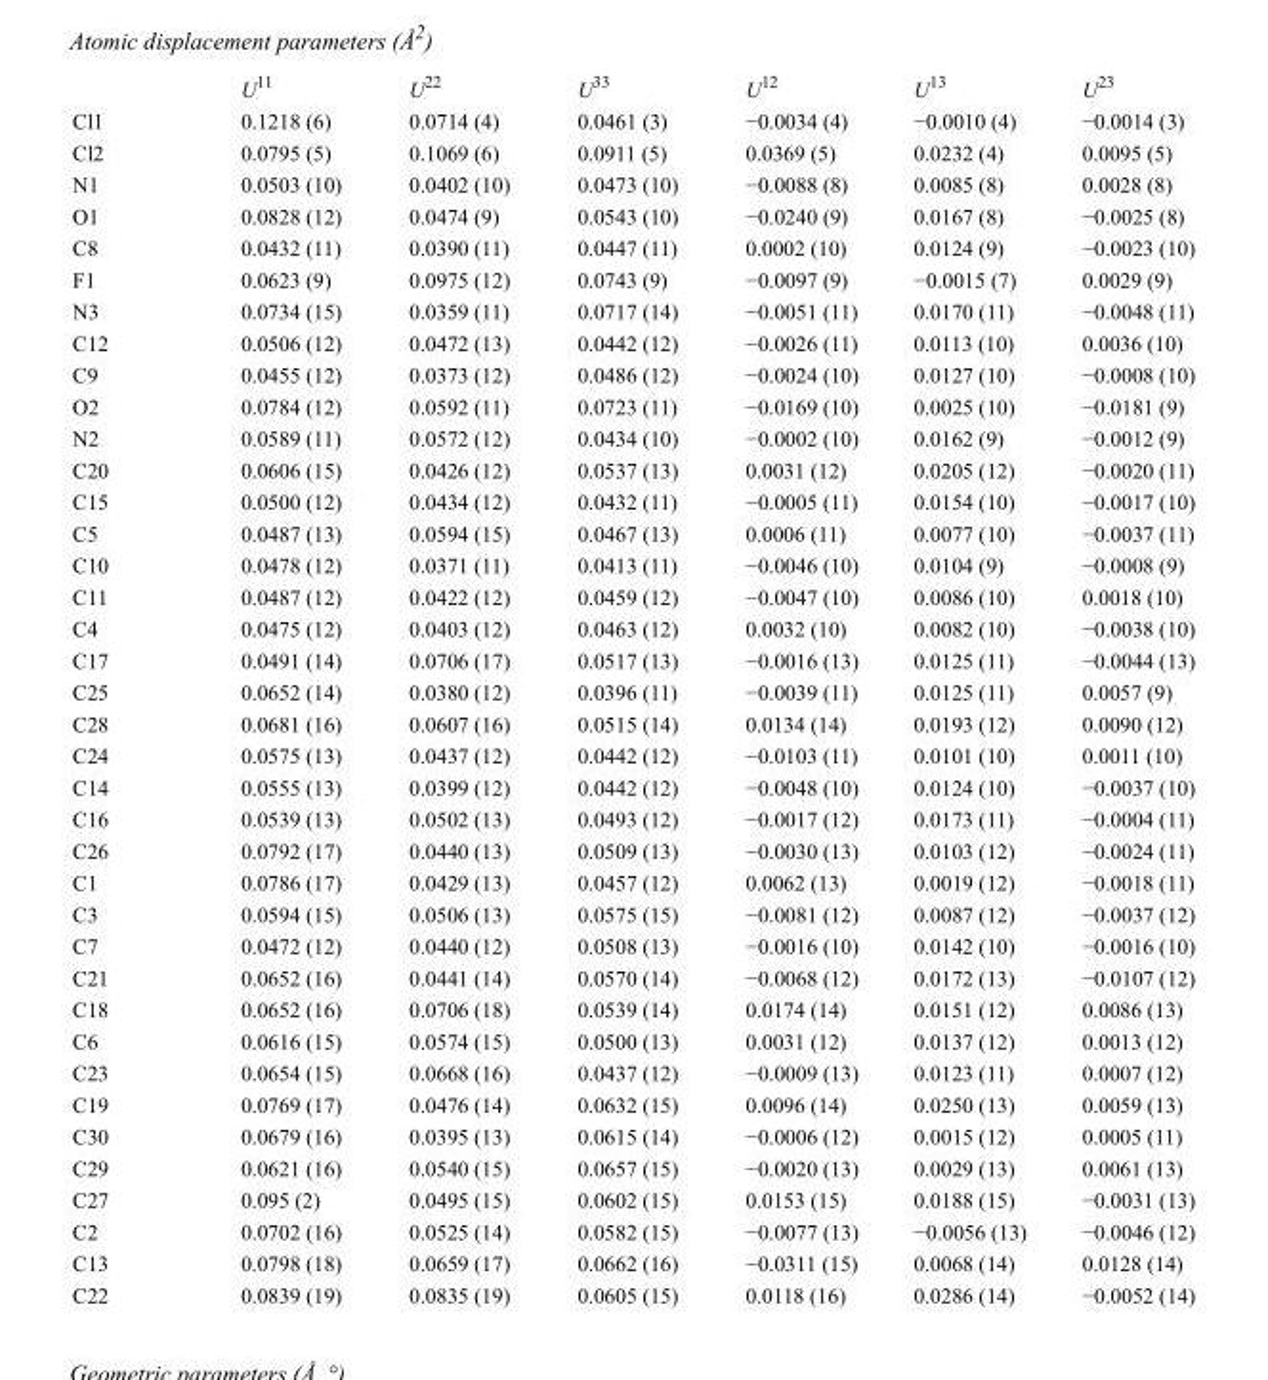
<table><thead><tr><td></td><td>U<sup>11</sup></td><td>U<sup>22</sup></td><td>U<sup>33</sup></td><td>U<sup>12</sup></td><td>U<sup>13</sup></td><td>U<sup>23</sup></td></tr></thead><tbody><tr><td>Cl1</td><td>0.1218 (6)</td><td>0.0714 (4)</td><td>0.0461 (3)</td><td>−0.0034 (4)</td><td>−0.0010 (4)</td><td>−0.0014 (3)</td></tr><tr><td>Cl2</td><td>0.0795 (5)</td><td>0.1069 (6)</td><td>0.0911 (5)</td><td>0.0369 (5)</td><td>0.0232 (4)</td><td>0.0095 (5)</td></tr><tr><td>N1</td><td>0.0503 (10)</td><td>0.0402 (10)</td><td>0.0473 (10)</td><td>−0.0088 (8)</td><td>0.0085 (8)</td><td>0.0028 (8)</td></tr><tr><td>O1</td><td>0.0828 (12)</td><td>0.0474 (9)</td><td>0.0543 (10)</td><td>−0.0240 (9)</td><td>0.0167 (8)</td><td>−0.0025 (8)</td></tr><tr><td>C8</td><td>0.0432 (11)</td><td>0.0390 (11)</td><td>0.0447 (11)</td><td>0.0002 (10)</td><td>0.0124 (9)</td><td>−0.0023 (10)</td></tr><tr><td>F1</td><td>0.0623 (9)</td><td>0.0975 (12)</td><td>0.0743 (9)</td><td>−0.0097 (9)</td><td>−0.0015 (7)</td><td>0.0029 (9)</td></tr><tr><td>N3</td><td>0.0734 (15)</td><td>0.0359 (11)</td><td>0.0717 (14)</td><td>−0.0051 (11)</td><td>0.0170 (11)</td><td>−0.0048 (11)</td></tr><tr><td>C12</td><td>0.0506 (12)</td><td>0.0472 (13)</td><td>0.0442 (12)</td><td>−0.0026 (11)</td><td>0.0113 (10)</td><td>0.0036 (10)</td></tr><tr><td>C9</td><td>0.0455 (12)</td><td>0.0373 (12)</td><td>0.0486 (12)</td><td>−0.0024 (10)</td><td>0.0127 (10)</td><td>−0.0008 (10)</td></tr><tr><td>O2</td><td>0.0784 (12)</td><td>0.0592 (11)</td><td>0.0723 (11)</td><td>−0.0169 (10)</td><td>0.0025 (10)</td><td>−0.0181 (9)</td></tr><tr><td>N2</td><td>0.0589 (11)</td><td>0.0572 (12)</td><td>0.0434 (10)</td><td>−0.0002 (10)</td><td>0.0162 (9)</td><td>−0.0012 (9)</td></tr><tr><td>C20</td><td>0.0606 (15)</td><td>0.0426 (12)</td><td>0.0537 (13)</td><td>0.0031 (12)</td><td>0.0205 (12)</td><td>−0.0020 (11)</td></tr><tr><td>C15</td><td>0.0500 (12)</td><td>0.0434 (12)</td><td>0.0432 (11)</td><td>−0.0005 (11)</td><td>0.0154 (10)</td><td>−0.0017 (10)</td></tr><tr><td>C5</td><td>0.0487 (13)</td><td>0.0594 (15)</td><td>0.0467 (13)</td><td>0.0006 (11)</td><td>0.0077 (10)</td><td>−0.0037 (11)</td></tr><tr><td>C10</td><td>0.0478 (12)</td><td>0.0371 (11)</td><td>0.0413 (11)</td><td>−0.0046 (10)</td><td>0.0104 (9)</td><td>−0.0008 (9)</td></tr><tr><td>C11</td><td>0.0487 (12)</td><td>0.0422 (12)</td><td>0.0459 (12)</td><td>−0.0047 (10)</td><td>0.0086 (10)</td><td>0.0018 (10)</td></tr><tr><td>C4</td><td>0.0475 (12)</td><td>0.0403 (12)</td><td>0.0463 (12)</td><td>0.0032 (10)</td><td>0.0082 (10)</td><td>−0.0038 (10)</td></tr><tr><td>C17</td><td>0.0491 (14)</td><td>0.0706 (17)</td><td>0.0517 (13)</td><td>−0.0016 (13)</td><td>0.0125 (11)</td><td>−0.0044 (13)</td></tr><tr><td>C25</td><td>0.0652 (14)</td><td>0.0380 (12)</td><td>0.0396 (11)</td><td>−0.0039 (11)</td><td>0.0125 (11)</td><td>0.0057 (9)</td></tr><tr><td>C28</td><td>0.0681 (16)</td><td>0.0607 (16)</td><td>0.0515 (14)</td><td>0.0134 (14)</td><td>0.0193 (12)</td><td>0.0090 (12)</td></tr><tr><td>C24</td><td>0.0575 (13)</td><td>0.0437 (12)</td><td>0.0442 (12)</td><td>−0.0103 (11)</td><td>0.0101 (10)</td><td>0.0011 (10)</td></tr><tr><td>C14</td><td>0.0555 (13)</td><td>0.0399 (12)</td><td>0.0442 (12)</td><td>−0.0048 (10)</td><td>0.0124 (10)</td><td>−0.0037 (10)</td></tr><tr><td>C16</td><td>0.0539 (13)</td><td>0.0502 (13)</td><td>0.0493 (12)</td><td>−0.0017 (12)</td><td>0.0173 (11)</td><td>−0.0004 (11)</td></tr><tr><td>C26</td><td>0.0792 (17)</td><td>0.0440 (13)</td><td>0.0509 (13)</td><td>−0.0030 (13)</td><td>0.0103 (12)</td><td>−0.0024 (11)</td></tr><tr><td>C1</td><td>0.0786 (17)</td><td>0.0429 (13)</td><td>0.0457 (12)</td><td>0.0062 (13)</td><td>0.0019 (12)</td><td>−0.0018 (11)</td></tr><tr><td>C3</td><td>0.0594 (15)</td><td>0.0506 (13)</td><td>0.0575 (15)</td><td>−0.0081 (12)</td><td>0.0087 (12)</td><td>−0.0037 (12)</td></tr><tr><td>C7</td><td>0.0472 (12)</td><td>0.0440 (12)</td><td>0.0508 (13)</td><td>−0.0016 (10)</td><td>0.0142 (10)</td><td>−0.0016 (10)</td></tr><tr><td>C21</td><td>0.0652 (16)</td><td>0.0441 (14)</td><td>0.0570 (14)</td><td>−0.0068 (12)</td><td>0.0172 (13)</td><td>−0.0107 (12)</td></tr><tr><td>C18</td><td>0.0652 (16)</td><td>0.0706 (18)</td><td>0.0539 (14)</td><td>0.0174 (14)</td><td>0.0151 (12)</td><td>0.0086 (13)</td></tr><tr><td>C6</td><td>0.0616 (15)</td><td>0.0574 (15)</td><td>0.0500 (13)</td><td>0.0031 (12)</td><td>0.0137 (12)</td><td>0.0013 (12)</td></tr><tr><td>C23</td><td>0.0654 (15)</td><td>0.0668 (16)</td><td>0.0437 (12)</td><td>−0.0009 (13)</td><td>0.0123 (11)</td><td>0.0007 (12)</td></tr><tr><td>C19</td><td>0.0769 (17)</td><td>0.0476 (14)</td><td>0.0632 (15)</td><td>0.0096 (14)</td><td>0.0250 (13)</td><td>0.0059 (13)</td></tr><tr><td>C30</td><td>0.0679 (16)</td><td>0.0395 (13)</td><td>0.0615 (14)</td><td>−0.0006 (12)</td><td>0.0015 (12)</td><td>0.0005 (11)</td></tr><tr><td>C29</td><td>0.0621 (16)</td><td>0.0540 (15)</td><td>0.0657 (15)</td><td>−0.0020 (13)</td><td>0.0029 (13)</td><td>0.0061 (13)</td></tr><tr><td>C27</td><td>0.095 (2)</td><td>0.0495 (15)</td><td>0.0602 (15)</td><td>0.0153 (15)</td><td>0.0188 (15)</td><td>−0.0031 (13)</td></tr><tr><td>C2</td><td>0.0702 (16)</td><td>0.0525 (14)</td><td>0.0582 (15)</td><td>−0.0077 (13)</td><td>−0.0056 (13)</td><td>−0.0046 (12)</td></tr><tr><td>C13</td><td>0.0798 (18)</td><td>0.0659 (17)</td><td>0.0662 (16)</td><td>−0.0311 (15)</td><td>0.0068 (14)</td><td>0.0128 (14)</td></tr><tr><td>C22</td><td>0.0839 (19)</td><td>0.0835 (19)</td><td>0.0605 (15)</td><td>0.0118 (16)</td><td>0.0286 (14)</td><td>−0.0052 (14)</td></tr></tbody></table>